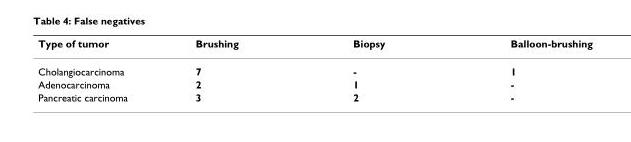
<table><thead><tr><td>Type of tumor</td><td>Brushing</td><td>Biopsy</td><td>Balloon-brushing</td></tr></thead><tbody><tr><td>Cholangiocarcinoma</td><td>7</td><td>-</td><td>1</td></tr><tr><td>Adenocarcinoma</td><td>2</td><td>1</td><td>-</td></tr><tr><td>Pancreatic carcinoma</td><td>3</td><td>2</td><td>-</td></tr></tbody></table>